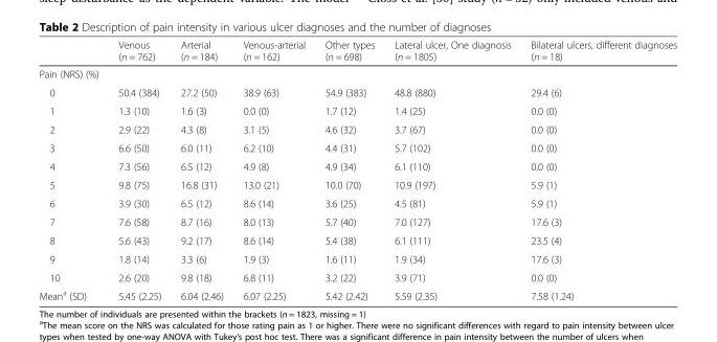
<table><thead><tr><td></td><td>Venous (n = 762)</td><td>Arterial (n = 184)</td><td>Venous-arterial (n = 162)</td><td>Other types (n = 698)</td><td>Lateral ulcer, One diagnosis (n = 1805)</td><td>Bilateral ulcers, different diagnoses (n = 18)</td></tr></thead><tbody><tr><td colspan="7">Pain (NRS) (%)</td></tr><tr><td>0</td><td>50.4 (384)</td><td>27.2 (50)</td><td>38.9 (63)</td><td>54.9 (383)</td><td>48.8 (880)</td><td>29.4 (6)</td></tr><tr><td>1</td><td>1.3 (10)</td><td>1.6 (3)</td><td>0.0 (0)</td><td>1.7 (12)</td><td>1.4 (25)</td><td>0.0 (0)</td></tr><tr><td>2</td><td>2.9 (22)</td><td>4.3 (8)</td><td>3.1 (5)</td><td>4.6 (32)</td><td>3.7 (67)</td><td>0.0 (0)</td></tr><tr><td>3</td><td>6.6 (50)</td><td>6.0 (11)</td><td>6.2 (10)</td><td>4.4 (31)</td><td>5.7 (102)</td><td>0.0 (0)</td></tr><tr><td>4</td><td>7.3 (56)</td><td>6.5 (12)</td><td>4.9 (8)</td><td>4.9 (34)</td><td>6.1 (110)</td><td>0.0 (0)</td></tr><tr><td>5</td><td>9.8 (75)</td><td>16.8 (31)</td><td>13.0 (21)</td><td>10.0 (70)</td><td>10.9 (197)</td><td>5.9 (1)</td></tr><tr><td>6</td><td>3.9 (30)</td><td>6.5 (12)</td><td>8.6 (14)</td><td>3.6 (25)</td><td>4.5 (81)</td><td>5.9 (1)</td></tr><tr><td>7</td><td>7.6 (58)</td><td>8.7 (16)</td><td>8.0 (13)</td><td>5.7 (40)</td><td>7.0 (127)</td><td>17.6 (3)</td></tr><tr><td>8</td><td>5.6 (43)</td><td>9.2 (17)</td><td>8.6 (14)</td><td>5.4 (38)</td><td>6.1 (111)</td><td>23.5 (4)</td></tr><tr><td>9</td><td>1.8 (14)</td><td>3.3 (6)</td><td>1.9 (3)</td><td>1.6 (11)</td><td>1.9 (34)</td><td>17.6 (3)</td></tr><tr><td>10</td><td>2.6 (20)</td><td>9.8 (18)</td><td>6.8 (11)</td><td>3.2 (22)</td><td>3.9 (71)</td><td>0.0 (0)</td></tr><tr><td>Mean<sup>a</sup> (SD)</td><td>5.45 (2.25)</td><td>6.04 (2.46)</td><td>6.07 (2.25)</td><td>5.42 (2.42)</td><td>5.59 (2.35)</td><td>7.58 (1.24)</td></tr></tbody></table>